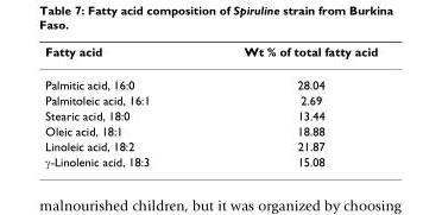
<table><thead><tr><td>Fatty acid</td><td>Wt % of total fatty acid</td></tr></thead><tbody><tr><td>Palmitic acid, 16:0</td><td>28.04</td></tr><tr><td>Palmitoleic acid, 16:1</td><td>2.69</td></tr><tr><td>Stearic acid, 18:0</td><td>13.44</td></tr><tr><td>Oleic acid, 18:1</td><td>18.88</td></tr><tr><td>Linoleic acid, 18:2</td><td>21.87</td></tr><tr><td>γ-Linolenic acid, 18:3</td><td>15.08</td></tr></tbody></table>